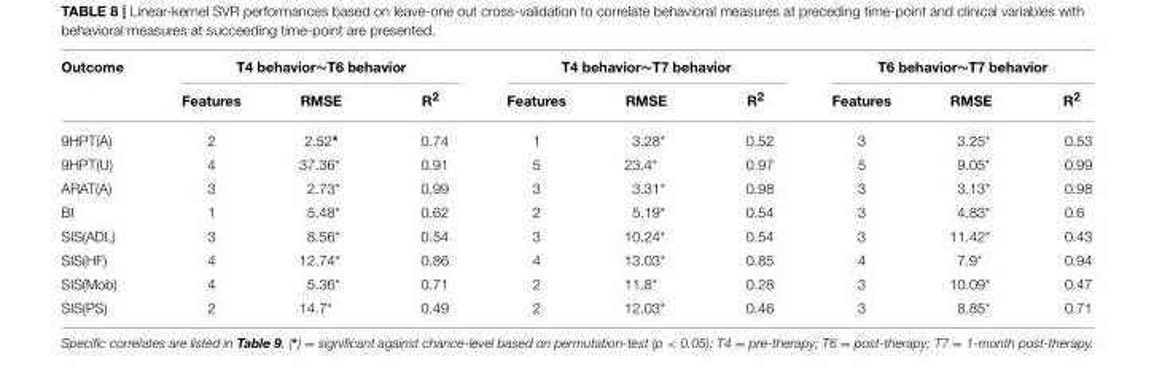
<table><thead><tr><td rowspan="2">Outcome</td><td colspan="3">T4 behavior∼T6 behavior</td><td colspan="3">T4 behavior∼T7 behavior</td><td colspan="3">T6 behavior∼T7 behavior</td></tr><tr><td>Features</td><td>RMSE</td><td>R2</td><td>Features</td><td>RMSE</td><td>R2</td><td>Features</td><td>RMSE</td><td>R2</td></tr></thead><tbody><tr><td>9HPT(A)</td><td>2</td><td>2.52*</td><td>0.74</td><td>1</td><td>3.28*</td><td>0.52</td><td>3</td><td>3.25*</td><td>0.53</td></tr><tr><td>9HPT(U)</td><td>4</td><td>37.36*</td><td>0.91</td><td>5</td><td>23.4*</td><td>0.97</td><td>5</td><td>9.05*</td><td>0.99</td></tr><tr><td>ARAT(A)</td><td>3</td><td>2.73*</td><td>0.99</td><td>3</td><td>3.31*</td><td>0.98</td><td>3</td><td>3.13*</td><td>0.98</td></tr><tr><td>BI</td><td>1</td><td>5.48*</td><td>0.62</td><td>2</td><td>5.19*</td><td>0.54</td><td>3</td><td>4.83*</td><td>0.6</td></tr><tr><td>SIS(ADL)</td><td>3</td><td>8.56*</td><td>0.54</td><td>3</td><td>10.24*</td><td>0.54</td><td>3</td><td>11.42*</td><td>0.43</td></tr><tr><td>SIS(HF)</td><td>4</td><td>12.74*</td><td>0.86</td><td>4</td><td>13.03*</td><td>0.85</td><td>4</td><td>7.9*</td><td>0.94</td></tr><tr><td>SIS(Mob)</td><td>4</td><td>5.36*</td><td>0.71</td><td>2</td><td>11.8*</td><td>0.28</td><td>3</td><td>10.09*</td><td>0.47</td></tr><tr><td>SIS(PS)</td><td>2</td><td>14.7*</td><td>0.49</td><td>2</td><td>12.03*</td><td>0.46</td><td>3</td><td>8.85*</td><td>0.71</td></tr></tbody></table>